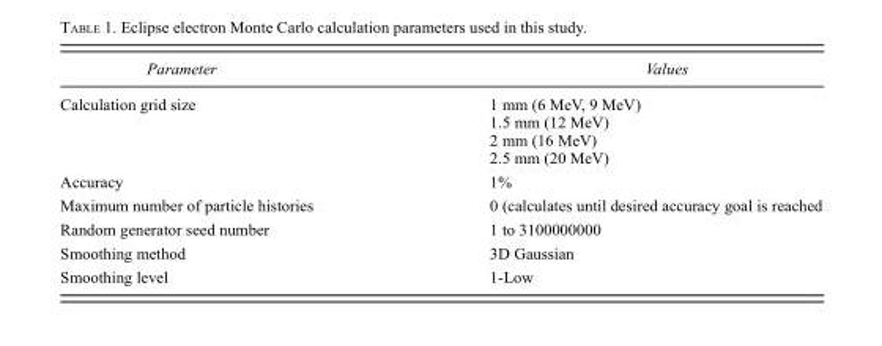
<table><thead><tr><td>Parameter</td><td>Values</td></tr></thead><tbody><tr><td rowspan="4">Calculation grid size</td><td>1 mm (6 MeV, 9 MeV)</td></tr><tr><td>1.5 mm (12 MeV)</td></tr><tr><td>2 mm (16 MeV)</td></tr><tr><td>2.5 mm (20 MeV)</td></tr><tr><td>Accuracy</td><td>1%</td></tr><tr><td>Maximum number of particle histories</td><td>0 (calculates until desired accuracy goal is reached</td></tr><tr><td>Random generator seed number</td><td>1 to 3100000000</td></tr><tr><td>Smoothing method</td><td>3D Gaussian</td></tr><tr><td>Smoothing level</td><td>1-Low</td></tr></tbody></table>